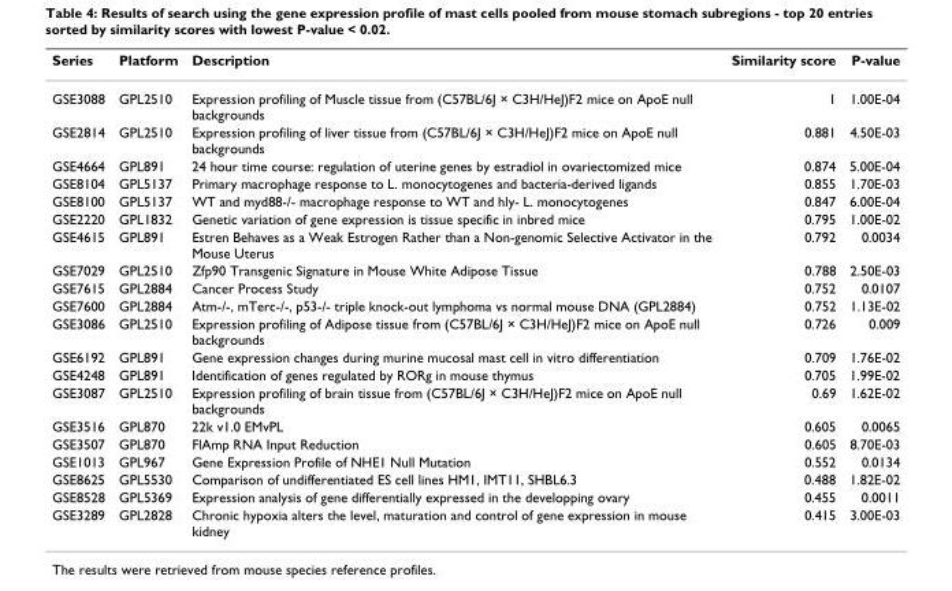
<table><thead><tr><td>Series</td><td>Platform</td><td>Description</td><td>Similarity score</td><td>P-value</td></tr></thead><tbody><tr><td>GSE3088</td><td>GPL2510</td><td>Expression profiling of Muscle tissue from (C57BL/6J × C3H/HeJ)F2 mice on ApoE null backgrounds</td><td>1</td><td>1.00E-04</td></tr><tr><td>GSE2814</td><td>GPL2510</td><td>Expression profiling of liver tissue from (C57BL/6J × C3H/HeJ)F2 mice on ApoE null backgrounds</td><td>0.881</td><td>4.50E-03</td></tr><tr><td>GSE4664</td><td>GPL891</td><td>24 hour time course: regulation of uterine genes by estradiol in ovariectomized mice</td><td>0.874</td><td>5.00E-04</td></tr><tr><td>GSE8104</td><td>GPL5137</td><td>Primary macrophage response to L. monocytogenes and bacteria-derived ligands</td><td>0.855</td><td>1.70E-03</td></tr><tr><td>GSE8100</td><td>GPL5137</td><td>WT and myd88-/- macrophage response to WT and hly- L. monocytogenes</td><td>0.847</td><td>6.00E-04</td></tr><tr><td>GSE2220</td><td>GPL1832</td><td>Genetic variation of gene expression is tissue specific in inbred mice</td><td>0.795</td><td>1.00E-02</td></tr><tr><td>GSE4615</td><td>GPL891</td><td>Estren Behaves as a Weak Estrogen Rather than a Non-genomic Selective Activator in the Mouse Uterus</td><td>0.792</td><td>0.0034</td></tr><tr><td>GSE7029</td><td>GPL2510</td><td>Zfp90 Transgenic Signature in Mouse White Adipose Tissue</td><td>0.788</td><td>2.50E-03</td></tr><tr><td>GSE7615</td><td>GPL2884</td><td>Cancer Process Study</td><td>0.752</td><td>0.0107</td></tr><tr><td>GSE7600</td><td>GPL2884</td><td>Atm-/-, mTerc-/-, p53-/- triple knock-out lymphoma vs normal mouse DNA (GPL2884)</td><td>0.752</td><td>1.13E-02</td></tr><tr><td>GSE3086</td><td>GPL2510</td><td>Expression profiling of Adipose tissue from (C57BL/6J × C3H/HeJ)F2 mice on ApoE null backgrounds</td><td>0.726</td><td>0.009</td></tr><tr><td>GSE6192</td><td>GPL891</td><td>Gene expression changes during murine mucosal mast cell in vitro differentiation</td><td>0.709</td><td>1.76E-02</td></tr><tr><td>GSE4248</td><td>GPL891</td><td>Identification of genes regulated by RORg in mouse thymus</td><td>0.705</td><td>1.99E-02</td></tr><tr><td>GSE3087</td><td>GPL2510</td><td>Expression profiling of brain tissue from (C57BL/6J × C3H/HeJ)F2 mice on ApoE null backgrounds</td><td>0.69</td><td>1.62E-02</td></tr><tr><td>GSE3516</td><td>GPL870</td><td>22k v1.0 EMvPL</td><td>0.605</td><td>0.0065</td></tr><tr><td>GSE3507</td><td>GPL870</td><td>FlAmp RNA Input Reduction</td><td>0.605</td><td>8.70E-03</td></tr><tr><td>GSE1013</td><td>GPL967</td><td>Gene Expression Profile of NHE1 Null Mutation</td><td>0.552</td><td>0.0134</td></tr><tr><td>GSE8625</td><td>GPL5530</td><td>Comparison of undifferentiated ES cell lines HM1, IMT11, SHBL6.3</td><td>0.488</td><td>1.82E-02</td></tr><tr><td>GSE8528</td><td>GPL5369</td><td>Expression analysis of gene differentially expressed in the developping ovary</td><td>0.455</td><td>0.0011</td></tr><tr><td>GSE3289</td><td>GPL2828</td><td>Chronic hypoxia alters the level, maturation and control of gene expression in mouse kidney</td><td>0.415</td><td>3.00E-03</td></tr></tbody></table>